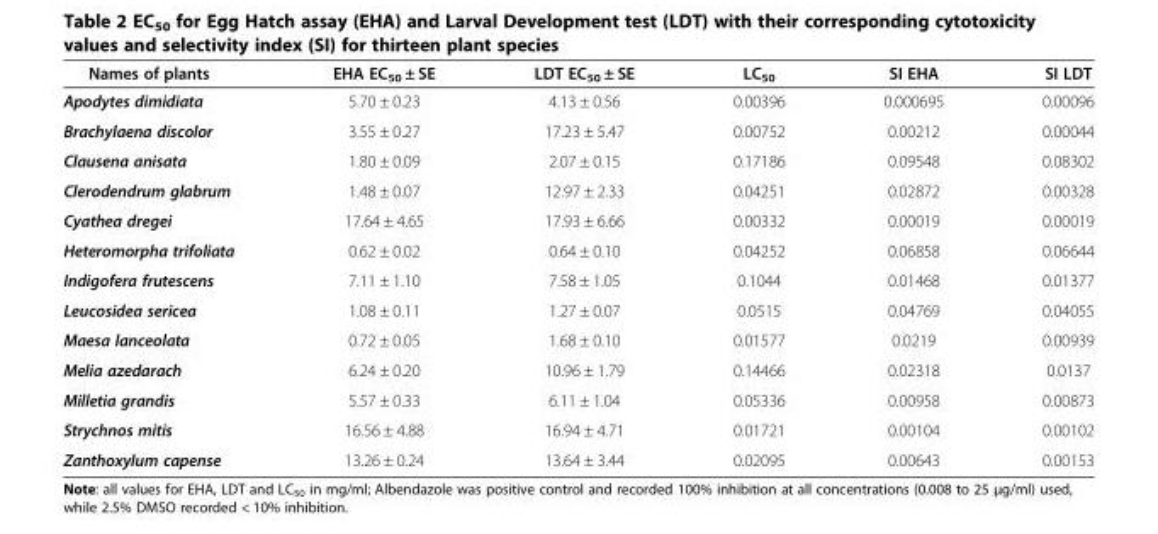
<table><thead><tr><td>Names of plants</td><td>EHA EC<sub>50</sub> ± SE</td><td>LDT EC<sub>50</sub> ± SE</td><td>LC<sub>50</sub></td><td>SI EHA</td><td>SI LDT</td></tr></thead><tbody><tr><td>Apodytes dimidiata</td><td>5.70 ± 0.23</td><td>4.13 ± 0.56</td><td>0.00396</td><td>0.000695</td><td>0.00096</td></tr><tr><td>Brachylaena discolor</td><td>3.55 ± 0.27</td><td>17.23 ± 5.47</td><td>0.00752</td><td>0.00212</td><td>0.00044</td></tr><tr><td>Clausena anisata</td><td>1.80 ± 0.09</td><td>2.07 ± 0.15</td><td>0.17186</td><td>0.09548</td><td>0.08302</td></tr><tr><td>Clerodendrum glabrum</td><td>1.48 ± 0.07</td><td>12.97 ± 2.33</td><td>0.04251</td><td>0.02872</td><td>0.00328</td></tr><tr><td>Cyathea dregei</td><td>17.64 ± 4.65</td><td>17.93 ± 6.66</td><td>0.00332</td><td>0.00019</td><td>0.00019</td></tr><tr><td>Heteromorpha trifoliata</td><td>0.62 ± 0.02</td><td>0.64 ± 0.10</td><td>0.04252</td><td>0.06858</td><td>0.06644</td></tr><tr><td>Indigofera frutescens</td><td>7.11 ± 1.10</td><td>7.58 ± 1.05</td><td>0.1044</td><td>0.01468</td><td>0.01377</td></tr><tr><td>Leucosidea sericea</td><td>1.08 ± 0.11</td><td>1.27 ± 0.07</td><td>0.0515</td><td>0.04769</td><td>0.04055</td></tr><tr><td>Maesa lanceolata</td><td>0.72 ± 0.05</td><td>1.68 ± 0.10</td><td>0.01577</td><td>0.0219</td><td>0.00939</td></tr><tr><td>Melia azedarach</td><td>6.24 ± 0.20</td><td>10.96 ± 1.79</td><td>0.14466</td><td>0.02318</td><td>0.0137</td></tr><tr><td>Milletia grandis</td><td>5.57 ± 0.33</td><td>6.11 ± 1.04</td><td>0.05336</td><td>0.00958</td><td>0.00873</td></tr><tr><td>Strychnos mitis</td><td>16.56 ± 4.88</td><td>16.94 ± 4.71</td><td>0.01721</td><td>0.00104</td><td>0.00102</td></tr><tr><td>Zanthoxylum capense</td><td>13.26 ± 0.24</td><td>13.64 ± 3.44</td><td>0.02095</td><td>0.00643</td><td>0.00153</td></tr></tbody></table>